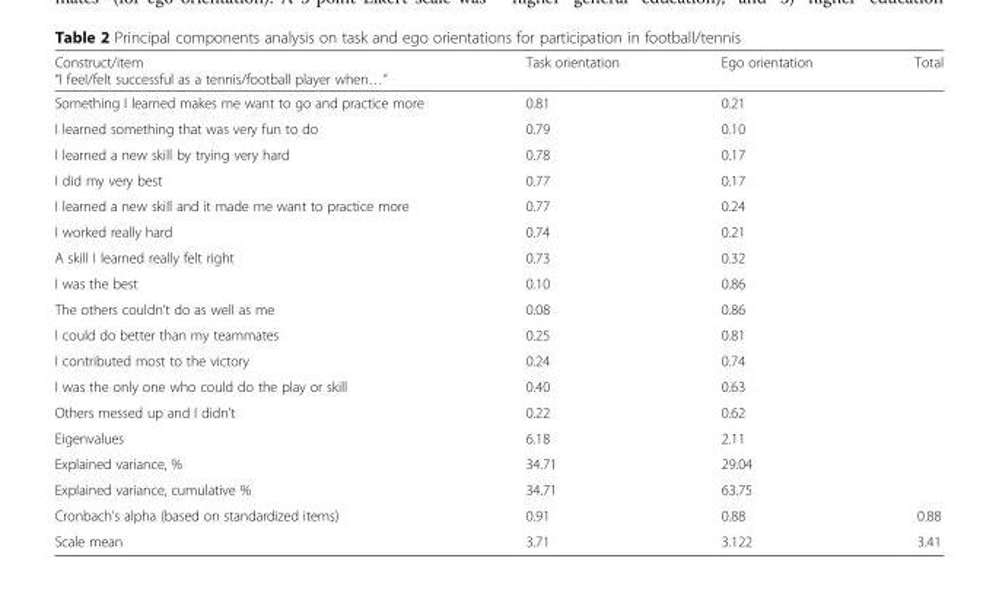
<table><thead><tr><td>Construct/item “I feel/felt successful as a tennis/football player when…”</td><td>Task orientation</td><td>Ego orientation</td><td>Total</td></tr></thead><tbody><tr><td>Something I learned makes me want to go and practice more</td><td>0.81</td><td>0.21</td><td></td></tr><tr><td>I learned something that was very fun to do</td><td>0.79</td><td>0.10</td><td></td></tr><tr><td>I learned a new skill by trying very hard</td><td>0.78</td><td>0.17</td><td></td></tr><tr><td>I did my very best</td><td>0.77</td><td>0.17</td><td></td></tr><tr><td>I learned a new skill and it made me want to practice more</td><td>0.77</td><td>0.24</td><td></td></tr><tr><td>I worked really hard</td><td>0.74</td><td>0.21</td><td></td></tr><tr><td>A skill I learned really felt right</td><td>0.73</td><td>0.32</td><td></td></tr><tr><td>I was the best</td><td>0.10</td><td>0.86</td><td></td></tr><tr><td>The others couldn’t do as well as me</td><td>0.08</td><td>0.86</td><td></td></tr><tr><td>I could do better than my teammates</td><td>0.25</td><td>0.81</td><td></td></tr><tr><td>I contributed most to the victory</td><td>0.24</td><td>0.74</td><td></td></tr><tr><td>I was the only one who could do the play or skill</td><td>0.40</td><td>0.63</td><td></td></tr><tr><td>Others messed up and I didn’t</td><td>0.22</td><td>0.62</td><td></td></tr><tr><td>Eigenvalues</td><td>6.18</td><td>2.11</td><td></td></tr><tr><td>Explained variance, %</td><td>34.71</td><td>29.04</td><td></td></tr><tr><td>Explained variance, cumulative %</td><td>34.71</td><td>63.75</td><td></td></tr><tr><td>Cronbach’s alpha (based on standardized items)</td><td>0.91</td><td>0.88</td><td>0.88</td></tr><tr><td>Scale mean</td><td>3.71</td><td>3.122</td><td>3.41</td></tr></tbody></table>